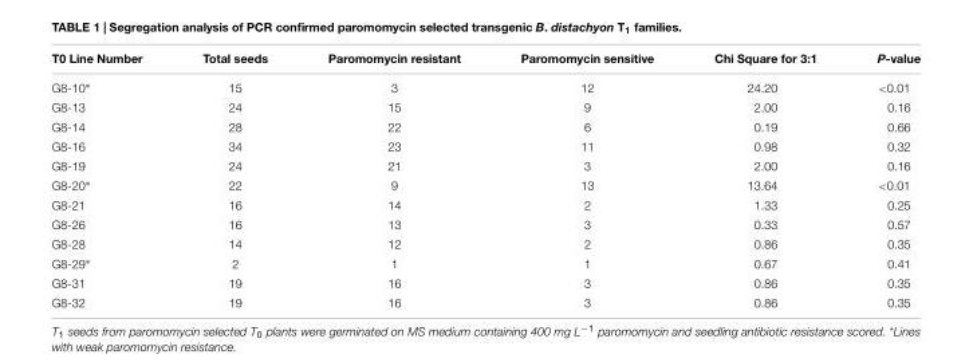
<table><thead><tr><td>T0 Line Number</td><td>Total seeds</td><td>Paromomycin resistant</td><td>Paromomycin sensitive</td><td>Chi Square for 3:1</td><td>P-value</td></tr></thead><tbody><tr><td>G8-10∗</td><td>15</td><td>3</td><td>12</td><td>24.20</td><td>&lt;0.01</td></tr><tr><td>G8-13</td><td>24</td><td>15</td><td>9</td><td>2.00</td><td>0.16</td></tr><tr><td>G8-14</td><td>28</td><td>22</td><td>6</td><td>0.19</td><td>0.66</td></tr><tr><td>G8-16</td><td>34</td><td>23</td><td>11</td><td>0.98</td><td>0.32</td></tr><tr><td>G8-19</td><td>24</td><td>21</td><td>3</td><td>2.00</td><td>0.16</td></tr><tr><td>G8-20∗</td><td>22</td><td>9</td><td>13</td><td>13.64</td><td>&lt;0.01</td></tr><tr><td>G8-21</td><td>16</td><td>14</td><td>2</td><td>1.33</td><td>0.25</td></tr><tr><td>G8-26</td><td>16</td><td>13</td><td>3</td><td>0.33</td><td>0.57</td></tr><tr><td>G8-28</td><td>14</td><td>12</td><td>2</td><td>0.86</td><td>0.35</td></tr><tr><td>G8-29∗</td><td>2</td><td>1</td><td>1</td><td>0.67</td><td>0.41</td></tr><tr><td>G8-31</td><td>19</td><td>16</td><td>3</td><td>0.86</td><td>0.35</td></tr><tr><td>G8-32</td><td>19</td><td>16</td><td>3</td><td>0.86</td><td>0.35</td></tr></tbody></table>